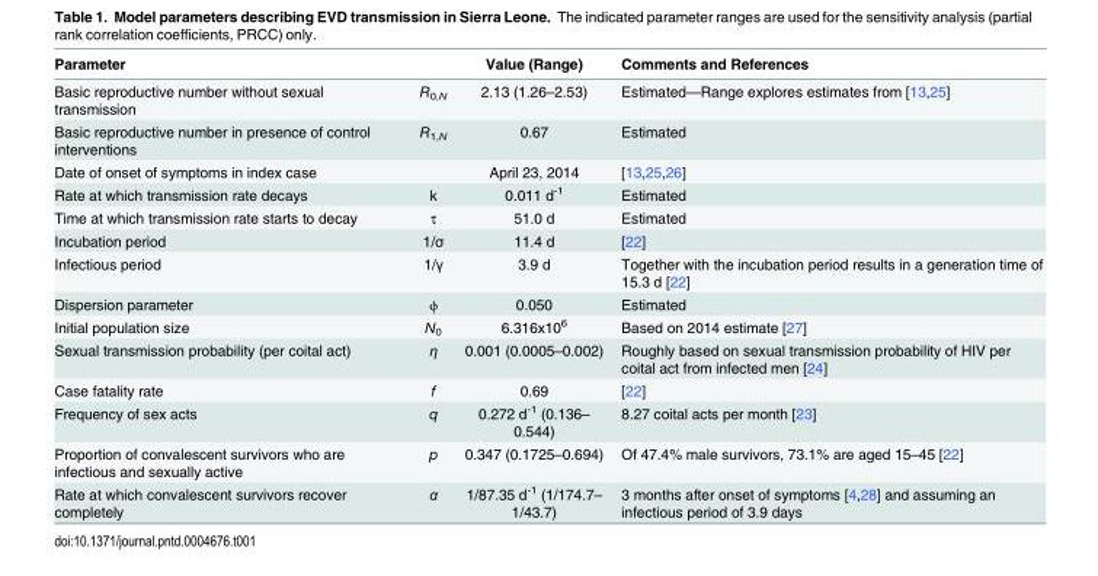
<table><thead><tr><td>Parameter</td><td></td><td>Value (Range)</td><td>Comments and References</td></tr></thead><tbody><tr><td>Basic reproductive number without sexual transmission</td><td>R<sub>0,N</sub></td><td>2.13 (1.26–2.53)</td><td>Estimated—Range explores estimates from [13,25]</td></tr><tr><td>Basic reproductive number in presence of control interventions</td><td>R<sub>1,N</sub></td><td>0.67</td><td>Estimated</td></tr><tr><td>Date of onset of symptoms in index case</td><td></td><td>April 23, 2014</td><td>[13,25,26]</td></tr><tr><td>Rate at which transmission rate decays</td><td>k</td><td>0.011 d<sup>-1</sup></td><td>Estimated</td></tr><tr><td>Time at which transmission rate starts to decay</td><td>τ</td><td>51.0 d</td><td>Estimated</td></tr><tr><td>Incubation period</td><td>1/σ</td><td>11.4 d</td><td>[22]</td></tr><tr><td>Infectious period</td><td>1/γ</td><td>3.9 d</td><td>Together with the incubation period results in a generation time of 15.3 d [22]</td></tr><tr><td>Dispersion parameter</td><td>ϕ</td><td>0.050</td><td>Estimated</td></tr><tr><td>Initial population size</td><td>N<sub>0</sub></td><td>6.316x10<sup>6</sup></td><td>Based on 2014 estimate [27]</td></tr><tr><td>Sexual transmission probability (per coital act)</td><td>η</td><td>0.001 (0.0005–0.002)</td><td>Roughly based on sexual transmission probability of HIV per coital act from infected men [24]</td></tr><tr><td>Case fatality rate</td><td>f</td><td>0.69</td><td>[22]</td></tr><tr><td>Frequency of sex acts</td><td>q</td><td>0.272 d<sup>-1</sup> (0.136– 0.544)</td><td>8.27 coital acts per month [23]</td></tr><tr><td>Proportion of convalescent survivors who are infectious and sexually active</td><td>p</td><td>0.347 (0.1725–0.694)</td><td>Of 47.4% male survivors, 73.1% are aged 15–45 [22]</td></tr><tr><td>Rate at which convalescent survivors recover completely</td><td>α</td><td>1/87.35 d<sup>-1</sup> (1/174.7– 1/43.7)</td><td>3 months after onset of symptoms [4,28] and assuming an infectious period of 3.9 days</td></tr></tbody></table>